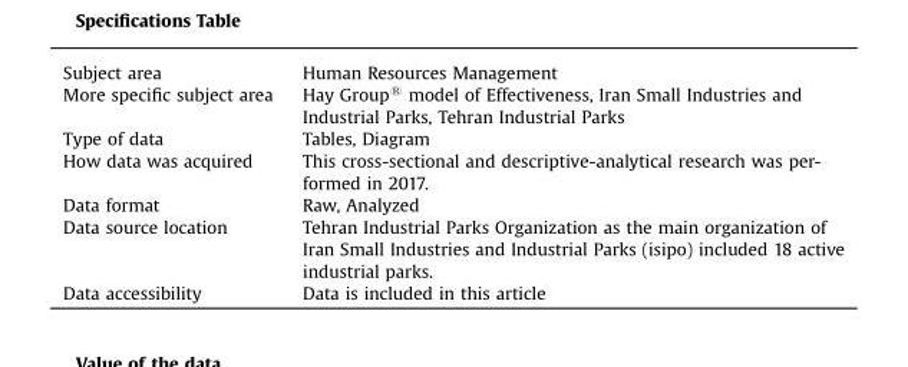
<table><tbody><tr><td>Subject area</td><td>Human Resources Management</td></tr><tr><td>More specific subject area</td><td>Hay Group® model of Effectiveness, Iran Small Industries and Industrial Parks, Tehran Industrial Parks</td></tr><tr><td>Type of data</td><td>Tables, Diagram</td></tr><tr><td>How data was acquired</td><td>This cross-sectional and descriptive-analytical research was per- formed in 2017.</td></tr><tr><td>Data format</td><td>Raw, Analyzed</td></tr><tr><td>Data source location</td><td>Tehran Industrial Parks Organization as the main organization of Iran Small Industries and Industrial Parks (isipo) included 18 active industrial parks.</td></tr><tr><td>Data accessibility</td><td>Data is included in this article</td></tr></tbody></table>